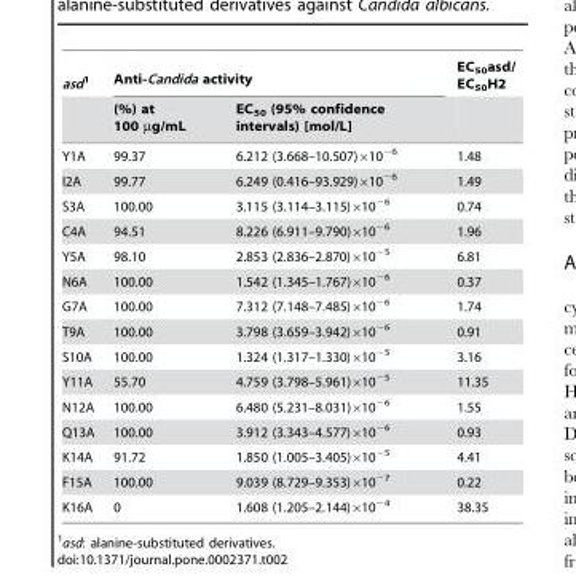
<table><thead><tr><td rowspan="2">asd1</td><td colspan="2">Anti-Candida activity</td><td rowspan="2">EC<sub>50</sub>asd/ EC<sub>50</sub>H2</td></tr><tr><td>(%) at 100 µg/mL</td><td>EC<sub>50</sub> (95% confidence intervals) [mol/L]</td></tr></thead><tbody><tr><td>Y1A</td><td>99.37</td><td>6.212 (3.668–10.507)×10<sup>−6</sup></td><td>1.48</td></tr><tr><td>I2A</td><td>99.77</td><td>6.249 (0.416–93.929)×10<sup>−6</sup></td><td>1.49</td></tr><tr><td>S3A</td><td>100.00</td><td>3.115 (3.114–3.115)×10<sup>−6</sup></td><td>0.74</td></tr><tr><td>C4A</td><td>94.51</td><td>8.226 (6.911–9.790)×10<sup>−6</sup></td><td>1.96</td></tr><tr><td>Y5A</td><td>98.10</td><td>2.853 (2.836–2.870)×10<sup>−5</sup></td><td>6.81</td></tr><tr><td>N6A</td><td>100.00</td><td>1.542 (1.345–1.767)×10<sup>−6</sup></td><td>0.37</td></tr><tr><td>G7A</td><td>100.00</td><td>7.312 (7.148–7.485)×10<sup>−6</sup></td><td>1.74</td></tr><tr><td>T9A</td><td>100.00</td><td>3.798 (3.659–3.942)×10<sup>−6</sup></td><td>0.91</td></tr><tr><td>S10A</td><td>100.00</td><td>1.324 (1.317–1.330)×10<sup>−5</sup></td><td>3.16</td></tr><tr><td>Y11A</td><td>55.70</td><td>4.759 (3.798–5.961)×10<sup>−5</sup></td><td>11.35</td></tr><tr><td>N12A</td><td>100.00</td><td>6.480 (5.231–8.031)×10<sup>−6</sup></td><td>1.55</td></tr><tr><td>Q13A</td><td>100.00</td><td>3.912 (3.343–4.577)×10<sup>−6</sup></td><td>0.93</td></tr><tr><td>K14A</td><td>91.72</td><td>1.850 (1.005–3.405)×10<sup>−5</sup></td><td>4.41</td></tr><tr><td>F15A</td><td>100.00</td><td>9.039 (8.729–9.353)×10<sup>−7</sup></td><td>0.22</td></tr><tr><td>K16A</td><td>0</td><td>1.608 (1.205–2.144)×10<sup>−4</sup></td><td>38.35</td></tr></tbody></table>